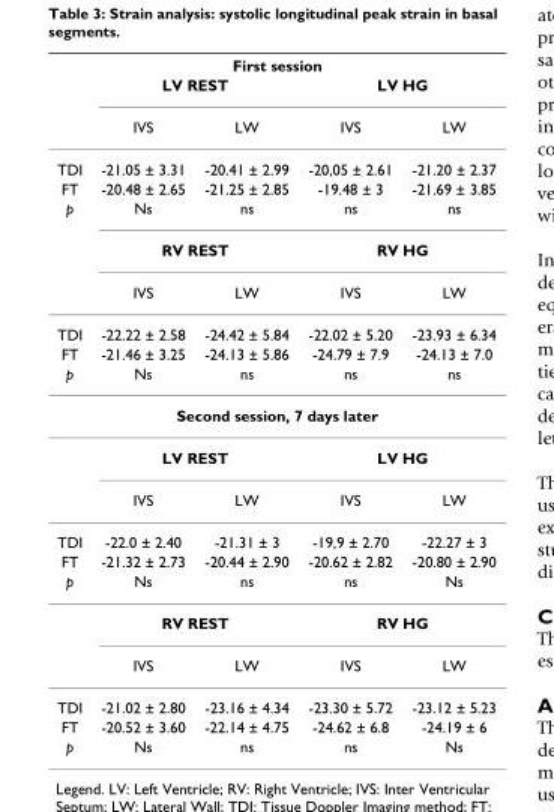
<table><thead><tr><td colspan="5">First session</td></tr><tr><td rowspan="2"></td><td colspan="2">LV REST</td><td colspan="2">LV HG</td></tr><tr><td>IVS</td><td>LW</td><td>IVS</td><td>LW</td></tr></thead><tbody><tr><td>TDI</td><td>-21.05 ± 3.31</td><td>-20.41 ± 2.99</td><td>-20,05 ± 2.61</td><td>-21.20 ± 2.37</td></tr><tr><td>FT</td><td>-20.48 ± 2.65</td><td>-21.25 ± 2.85</td><td>-19.48 ± 3</td><td>-21.69 ± 3.85</td></tr><tr><td rowspan="3">p</td><td>Ns</td><td>ns</td><td>ns</td><td>ns</td></tr><tr><td colspan="2">RV REST</td><td colspan="2">RV HG</td></tr><tr><td>IVS</td><td>LW</td><td>IVS</td><td>LW</td></tr><tr><td>TDI</td><td>-22.22 ± 2.58</td><td>-24.42 ± 5.84</td><td>-22.02 ± 5.20</td><td>-23.93 ± 6.34</td></tr><tr><td>FT</td><td>-21.46 ± 3.25</td><td>-24.13 ± 5.86</td><td>-24.79 ± 7.9</td><td>-24.13 ± 7.0</td></tr><tr><td>p</td><td>Ns</td><td>ns</td><td>ns</td><td>ns</td></tr><tr><td colspan="5">Second session, 7 days later</td></tr><tr><td></td><td colspan="2">LV REST</td><td colspan="2">LV HG</td></tr><tr><td></td><td>IVS</td><td>LW</td><td>IVS</td><td>LW</td></tr><tr><td>TDI</td><td>-22.0 ± 2.40</td><td>-21.31 ± 3</td><td>-19,9 ± 2.70</td><td>-22.27 ± 3</td></tr><tr><td>FT</td><td>-21.32 ± 2.73</td><td>-20.44 ± 2.90</td><td>-20.62 ± 2.82</td><td>-20.80 ± 2.90</td></tr><tr><td rowspan="3">p</td><td>Ns</td><td>ns</td><td>ns</td><td>Ns</td></tr><tr><td colspan="2">RV REST</td><td colspan="2">RV HG</td></tr><tr><td>IVS</td><td>LW</td><td>IVS</td><td>LW</td></tr><tr><td>TDI</td><td>-21.02 ± 2.80</td><td>-23.16 ± 4.34</td><td>-23.30 ± 5.72</td><td>-23.12 ± 5.23</td></tr><tr><td>FT</td><td>-20.52 ± 3.60</td><td>-22.14 ± 4.75</td><td>-24.62 ± 6.8</td><td>-24.19 ± 6</td></tr><tr><td>p</td><td>Ns</td><td>ns</td><td>ns</td><td>Ns</td></tr></tbody></table>